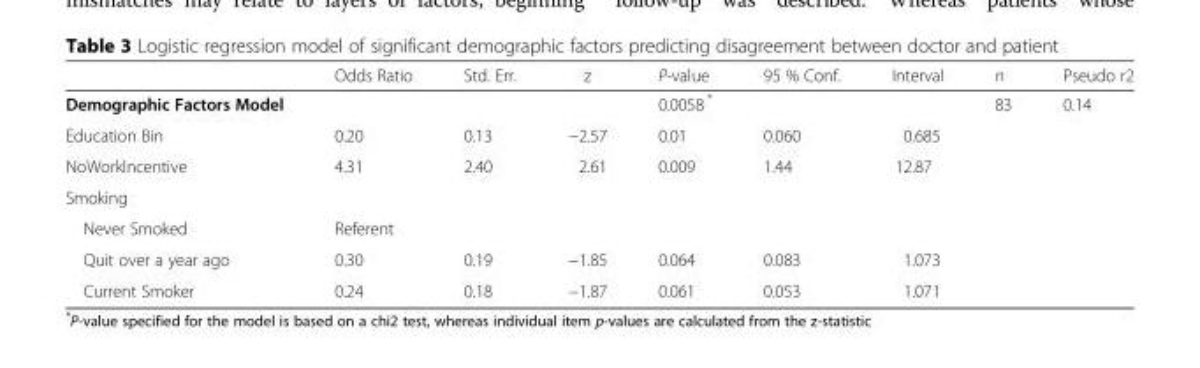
<table><thead><tr><td></td><td>Odds Ratio</td><td>Std. Err.</td><td>z</td><td>P-value</td><td>95 % Conf.</td><td>Interval</td><td>n</td><td>Pseudo r2</td></tr></thead><tbody><tr><td>Demographic Factors Model</td><td></td><td></td><td></td><td>0.0058 *</td><td></td><td></td><td>83</td><td>0.14</td></tr><tr><td>Education Bin</td><td>0.20</td><td>0.13</td><td>−2.57</td><td>0.01</td><td>0.060</td><td>0.685</td><td></td><td></td></tr><tr><td>NoWorklncentive</td><td>4.31</td><td>2.40</td><td>2.61</td><td>0.009</td><td>1.44</td><td>12.87</td><td></td><td></td></tr><tr><td colspan="9">Smoking</td></tr><tr><td>Never Smoked</td><td>Referent</td><td></td><td></td><td></td><td></td><td></td><td></td><td></td></tr><tr><td>Quit over a year ago</td><td>0.30</td><td>0.19</td><td>−1.85</td><td>0.064</td><td>0.083</td><td>1.073</td><td></td><td></td></tr><tr><td>Current Smoker</td><td>0.24</td><td>0.18</td><td>−1.87</td><td>0.061</td><td>0.053</td><td>1.071</td><td></td><td></td></tr></tbody></table>